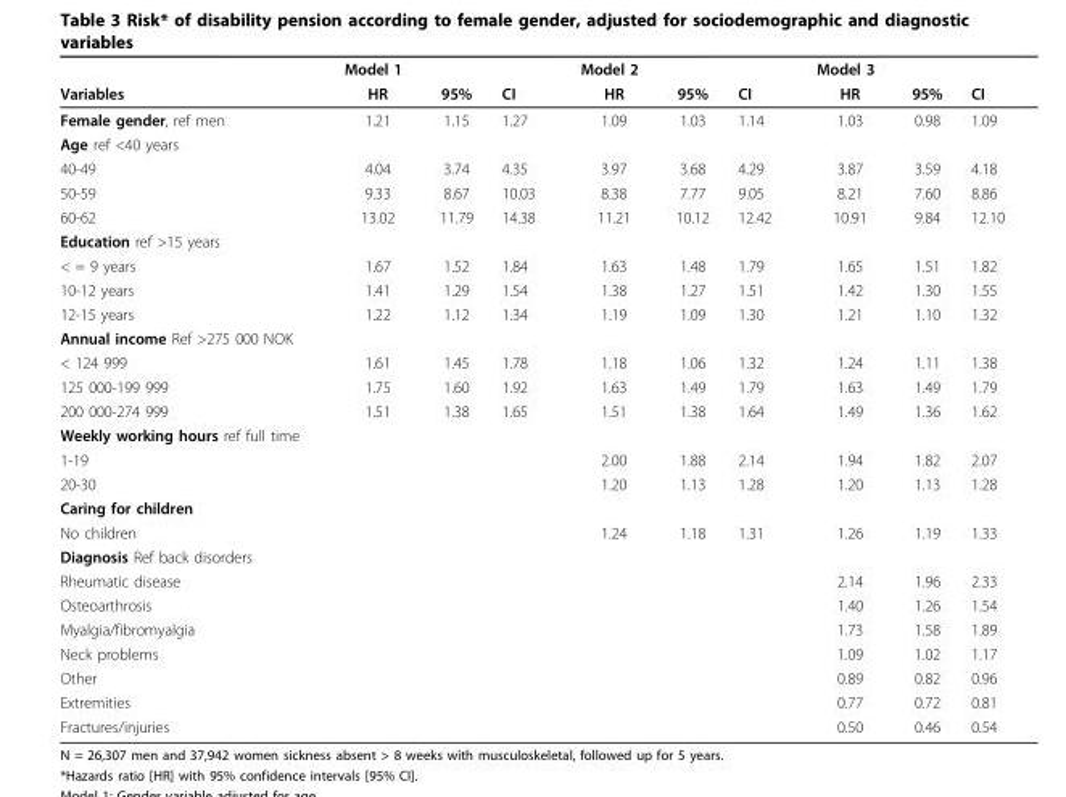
<table><thead><tr><td rowspan="2">Variables</td><td colspan="3">Model 1</td><td colspan="3">Model 2</td><td colspan="3">Model 3</td></tr><tr><td>HR</td><td>95%</td><td>CI</td><td>HR</td><td>95%</td><td>CI</td><td>HR</td><td>95%</td><td>CI</td></tr></thead><tbody><tr><td>Female gender, ref men</td><td>1.21</td><td>1.15</td><td>1.27</td><td>1.09</td><td>1.03</td><td>1.14</td><td>1.03</td><td>0.98</td><td>1.09</td></tr><tr><td colspan="10">Age ref &lt;40 years</td></tr><tr><td>40-49</td><td>4.04</td><td>3.74</td><td>4.35</td><td>3.97</td><td>3.68</td><td>4.29</td><td>3.87</td><td>3.59</td><td>4.18</td></tr><tr><td>50-59</td><td>9.33</td><td>8.67</td><td>10.03</td><td>8.38</td><td>7.77</td><td>9.05</td><td>8.21</td><td>7.60</td><td>8.86</td></tr><tr><td>60-62</td><td>13.02</td><td>11.79</td><td>14.38</td><td>11.21</td><td>10.12</td><td>12.42</td><td>10.91</td><td>9.84</td><td>12.10</td></tr><tr><td colspan="10">Education ref &gt;15 years</td></tr><tr><td>&lt; = 9 years</td><td>1.67</td><td>1.52</td><td>1.84</td><td>1.63</td><td>1.48</td><td>1.79</td><td>1.65</td><td>1.51</td><td>1.82</td></tr><tr><td>10-12 years</td><td>1.41</td><td>1.29</td><td>1.54</td><td>1.38</td><td>1.27</td><td>1.51</td><td>1.42</td><td>1.30</td><td>1.55</td></tr><tr><td>12-15 years</td><td>1.22</td><td>1.12</td><td>1.34</td><td>1.19</td><td>1.09</td><td>1.30</td><td>1.21</td><td>1.10</td><td>1.32</td></tr><tr><td colspan="10">Annual income Ref &gt;275 000 NOK</td></tr><tr><td>&lt; 124 999</td><td>1.61</td><td>1.45</td><td>1.78</td><td>1.18</td><td>1.06</td><td>1.32</td><td>1.24</td><td>1.11</td><td>1.38</td></tr><tr><td>125 000-199 999</td><td>1.75</td><td>1.60</td><td>1.92</td><td>1.63</td><td>1.49</td><td>1.79</td><td>1.63</td><td>1.49</td><td>1.79</td></tr><tr><td>200 000-274 999</td><td>1.51</td><td>1.38</td><td>1.65</td><td>1.51</td><td>1.38</td><td>1.64</td><td>1.49</td><td>1.36</td><td>1.62</td></tr><tr><td colspan="10">Weekly working hours ref full time</td></tr><tr><td>1-19</td><td></td><td></td><td></td><td>2.00</td><td>1.88</td><td>2.14</td><td>1.94</td><td>1.82</td><td>2.07</td></tr><tr><td>20-30</td><td></td><td></td><td></td><td>1.20</td><td>1.13</td><td>1.28</td><td>1.20</td><td>1.13</td><td>1.28</td></tr><tr><td colspan="10">Caring for children</td></tr><tr><td>No children</td><td></td><td></td><td></td><td>1.24</td><td>1.18</td><td>1.31</td><td>1.26</td><td>1.19</td><td>1.33</td></tr><tr><td colspan="10">Diagnosis Ref back disorders</td></tr><tr><td>Rheumatic disease</td><td></td><td></td><td></td><td></td><td></td><td></td><td>2.14</td><td>1.96</td><td>2.33</td></tr><tr><td>Osteoarthrosis</td><td></td><td></td><td></td><td></td><td></td><td></td><td>1.40</td><td>1.26</td><td>1.54</td></tr><tr><td>Myalgia/fibromyalgia</td><td></td><td></td><td></td><td></td><td></td><td></td><td>1.73</td><td>1.58</td><td>1.89</td></tr><tr><td>Neck problems</td><td></td><td></td><td></td><td></td><td></td><td></td><td>1.09</td><td>1.02</td><td>1.17</td></tr><tr><td>Other</td><td></td><td></td><td></td><td></td><td></td><td></td><td>0.89</td><td>0.82</td><td>0.96</td></tr><tr><td>Extremities</td><td></td><td></td><td></td><td></td><td></td><td></td><td>0.77</td><td>0.72</td><td>0.81</td></tr><tr><td>Fractures/injuries</td><td></td><td></td><td></td><td></td><td></td><td></td><td>0.50</td><td>0.46</td><td>0.54</td></tr></tbody></table>